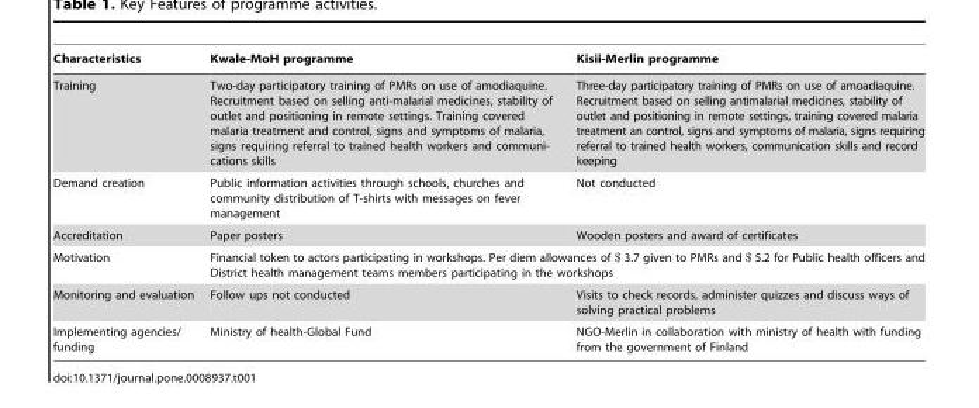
<table><thead><tr><td>Characteristics</td><td>Kwale-MoH programme</td><td>Kisii-Merlin programme</td></tr></thead><tbody><tr><td>Training</td><td>Two-day participatory training of PMRs on use of amodiaquine. Recruitment based on selling anti-malarial medicines, stability of outlet and positioning in remote settings. Training covered malaria treatment and control, signs and symptoms of malaria, signs requiring referral to trained health workers and communi- cations skills</td><td>Three-day participatory training of PMRs on use of amoadiaquine. Recruitment based on selling antimalarial medicines, stability of outlet and positioning in remote settings, training covered malaria treatment an control, signs and symptoms of malaria, signs requiring referral to trained health workers, communication skills and record keeping</td></tr><tr><td>Demand creation</td><td>Public information activities through schools, churches and community distribution of T-shirts with messages on fever management</td><td>Not conducted</td></tr><tr><td>Accreditation</td><td>Paper posters</td><td>Wooden posters and award of certificates</td></tr><tr><td>Motivation</td><td colspan="2">Financial token to actors participating in workshops. Per diem allowances of $ 3.7 given to PMRs and $ 5.2 for Public health officers and District health management teams members participating in the workshops</td></tr><tr><td>Monitoring and evaluation</td><td>Follow ups not conducted</td><td>Visits to check records, administer quizzes and discuss ways of solving practical problems</td></tr><tr><td>Implementing agencies/ funding</td><td>Ministry of health-Global Fund</td><td>NGO-Merlin in collaboration with ministry of health with funding from the government of Finland</td></tr></tbody></table>